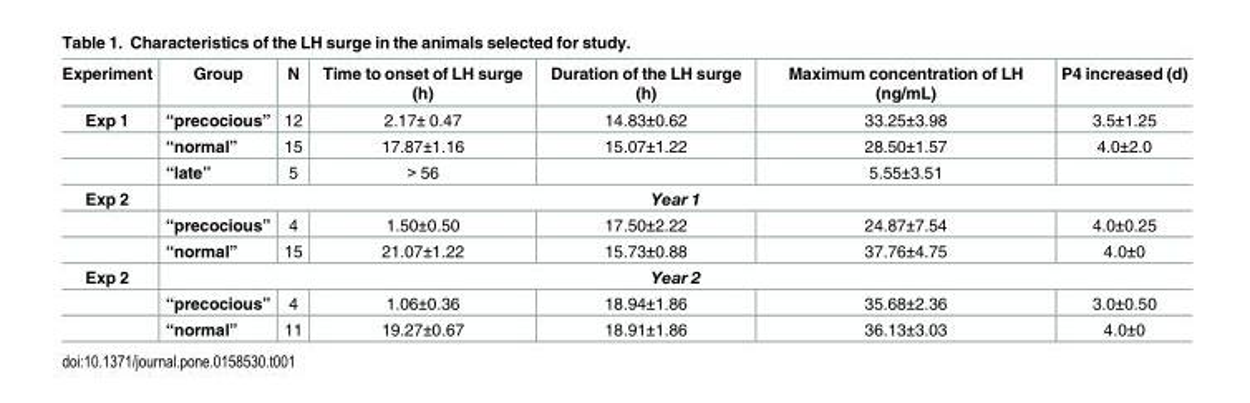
<table><thead><tr><td>Experiment</td><td>Group</td><td>N</td><td>Time to onset of LH surge (h)</td><td>Duration of the LH surge (h)</td><td>Maximum concentration of LH (ng/mL)</td><td>P4 increased (d)</td></tr></thead><tbody><tr><td rowspan="3">Exp 1</td><td>“precocious”</td><td>12</td><td>2.17± 0.47</td><td>14.83±0.62</td><td>33.25±3.98</td><td>3.5±1.25</td></tr><tr><td>“normal”</td><td>15</td><td>17.87±1.16</td><td>15.07±1.22</td><td>28.50±1.57</td><td>4.0±2.0</td></tr><tr><td>“late”</td><td>5</td><td>&gt; 56</td><td></td><td>5.55±3.51</td><td></td></tr><tr><td rowspan="3">Exp 2</td><td colspan="6">Year 1</td></tr><tr><td>“precocious”</td><td>4</td><td>1.50±0.50</td><td>17.50±2.22</td><td>24.87±7.54</td><td>4.0±0.25</td></tr><tr><td>“normal”</td><td>15</td><td>21.07±1.22</td><td>15.73±0.88</td><td>37.76±4.75</td><td>4.0±0</td></tr><tr><td rowspan="3">Exp 2</td><td colspan="6">Year 2</td></tr><tr><td>“precocious”</td><td>4</td><td>1.06±0.36</td><td>18.94±1.86</td><td>35.68±2.36</td><td>3.0±0.50</td></tr><tr><td>“normal”</td><td>11</td><td>19.27±0.67</td><td>18.91±1.86</td><td>36.13±3.03</td><td>4.0±0</td></tr></tbody></table>